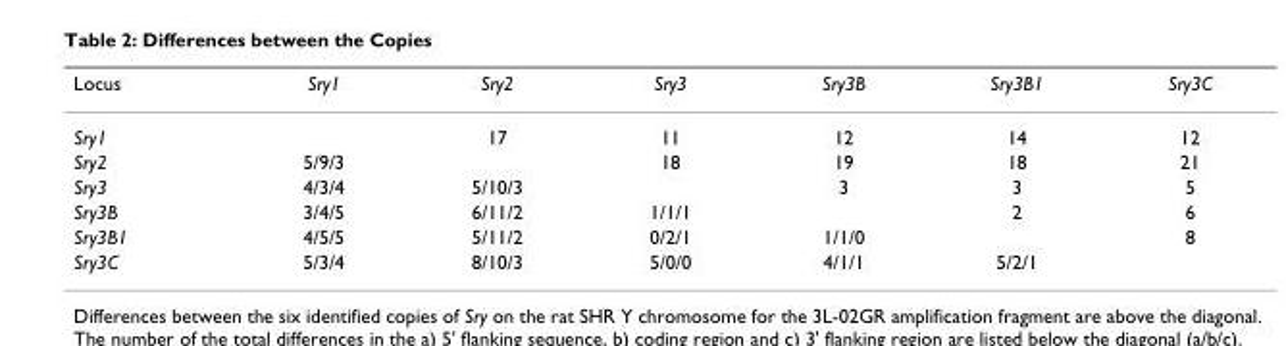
<table><thead><tr><td>Locus</td><td>Sry1</td><td>Sry2</td><td>Sry3</td><td>Sry3B</td><td>Sry3B1</td><td>Sry3C</td></tr></thead><tbody><tr><td>Sry1</td><td></td><td>17</td><td>11</td><td>12</td><td>14</td><td>12</td></tr><tr><td>Sry2</td><td>5/9/3</td><td></td><td>18</td><td>19</td><td>18</td><td>21</td></tr><tr><td>Sry3</td><td>4/3/4</td><td>5/10/3</td><td></td><td>3</td><td>3</td><td>5</td></tr><tr><td>Sry3B</td><td>3/4/5</td><td>6/11/2</td><td>1/1/1</td><td></td><td>2</td><td>6</td></tr><tr><td>Sry3B1</td><td>4/5/5</td><td>5/11/2</td><td>0/2/1</td><td>1/1/0</td><td></td><td>8</td></tr><tr><td>Sry3C</td><td>5/3/4</td><td>8/10/3</td><td>5/0/0</td><td>4/1/1</td><td>5/2/1</td><td></td></tr></tbody></table>